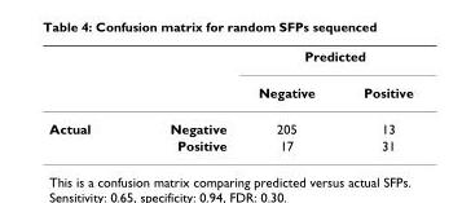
<table><thead><tr><td rowspan="2"></td><td rowspan="2"></td><td colspan="2">Predicted</td></tr><tr><td>Negative</td><td>Positive</td></tr></thead><tbody><tr><td rowspan="2">Actual</td><td>Negative</td><td>205</td><td>13</td></tr><tr><td>Positive</td><td>17</td><td>31</td></tr></tbody></table>